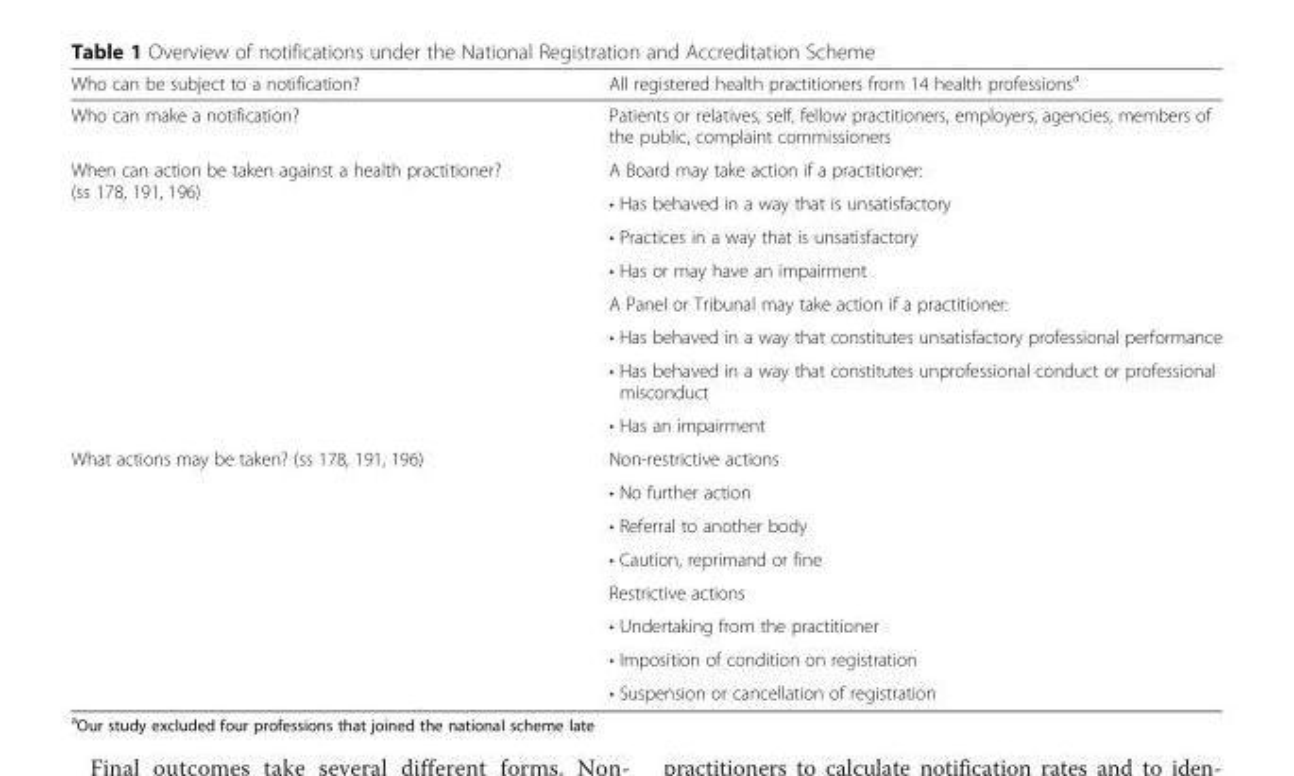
<table><thead><tr><td>Who can be subject to a notification?</td><td>All registered health practitioners from 14 health professions<sup>a</sup></td></tr></thead><tbody><tr><td>Who can make a notification?</td><td>Patients or relatives, self, fellow practitioners, employers, agencies, members of the public, complaint commissioners</td></tr><tr><td rowspan="8">When can action be taken against a health practitioner? (ss 178, 191, 196)</td><td>A Board may take action if a practitioner:</td></tr><tr><td>• Has behaved in a way that is unsatisfactory</td></tr><tr><td>• Practices in a way that is unsatisfactory</td></tr><tr><td>• Has or may have an impairment</td></tr><tr><td>A Panel or Tribunal may take action if a practitioner:</td></tr><tr><td>• Has behaved in a way that constitutes unsatisfactory professional performance</td></tr><tr><td>• Has behaved in a way that constitutes unprofessional conduct or professional misconduct</td></tr><tr><td>• Has an impairment</td></tr><tr><td rowspan="8">What actions may be taken? (ss 178, 191, 196)</td><td>Non-restrictive actions</td></tr><tr><td>• No further action</td></tr><tr><td>• Referral to another body</td></tr><tr><td>• Caution, reprimand or fine</td></tr><tr><td>Restrictive actions</td></tr><tr><td>• Undertaking from the practitioner</td></tr><tr><td>• Imposition of condition on registration</td></tr><tr><td>• Suspension or cancellation of registration</td></tr></tbody></table>